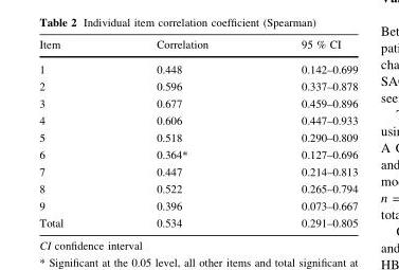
<table><thead><tr><td>Item</td><td>Correlation</td><td>95 % CI</td></tr></thead><tbody><tr><td>1</td><td>0.448</td><td>0.142–0.699</td></tr><tr><td>2</td><td>0.596</td><td>0.337–0.878</td></tr><tr><td>3</td><td>0.677</td><td>0.459–0.896</td></tr><tr><td>4</td><td>0.606</td><td>0.447–0.933</td></tr><tr><td>5</td><td>0.518</td><td>0.290–0.809</td></tr><tr><td>6</td><td>0.364*</td><td>0.127–0.696</td></tr><tr><td>7</td><td>0.447</td><td>0.214–0.813</td></tr><tr><td>8</td><td>0.522</td><td>0.265–0.794</td></tr><tr><td>9</td><td>0.396</td><td>0.073–0.667</td></tr><tr><td>Total</td><td>0.534</td><td>0.291–0.805</td></tr></tbody></table>